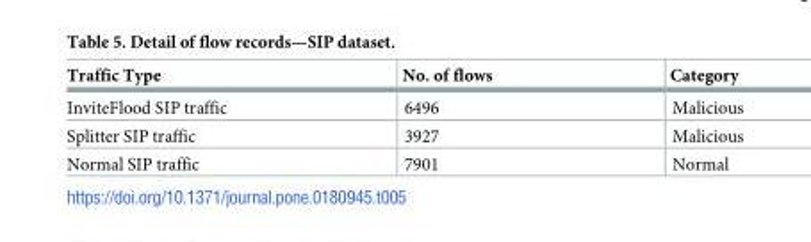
<table><thead><tr><td>Traffic Type</td><td>No. of flows</td><td>Category</td></tr></thead><tbody><tr><td>InviteFlood SIP traffic</td><td>6496</td><td>Malicious</td></tr><tr><td>Splitter SIP traffic</td><td>3927</td><td>Malicious</td></tr><tr><td>Normal SIP traffic</td><td>7901</td><td>Normal</td></tr></tbody></table>